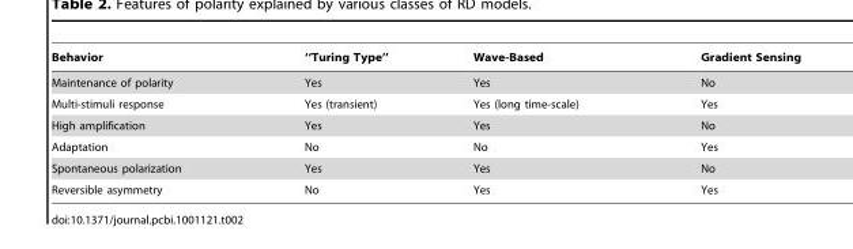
<table><thead><tr><td>Behavior</td><td>‘‘Turing Type’’</td><td>Wave-Based</td><td>Gradient Sensing</td></tr></thead><tbody><tr><td>Maintenance of polarity</td><td>Yes</td><td>Yes</td><td>No</td></tr><tr><td>Multi-stimuli response</td><td>Yes (transient)</td><td>Yes (long time-scale)</td><td>Yes</td></tr><tr><td>High amplification</td><td>Yes</td><td>Yes</td><td>No</td></tr><tr><td>Adaptation</td><td>No</td><td>No</td><td>Yes</td></tr><tr><td>Spontaneous polarization</td><td>Yes</td><td>Yes</td><td>No</td></tr><tr><td>Reversible asymmetry</td><td>No</td><td>Yes</td><td>Yes</td></tr></tbody></table>